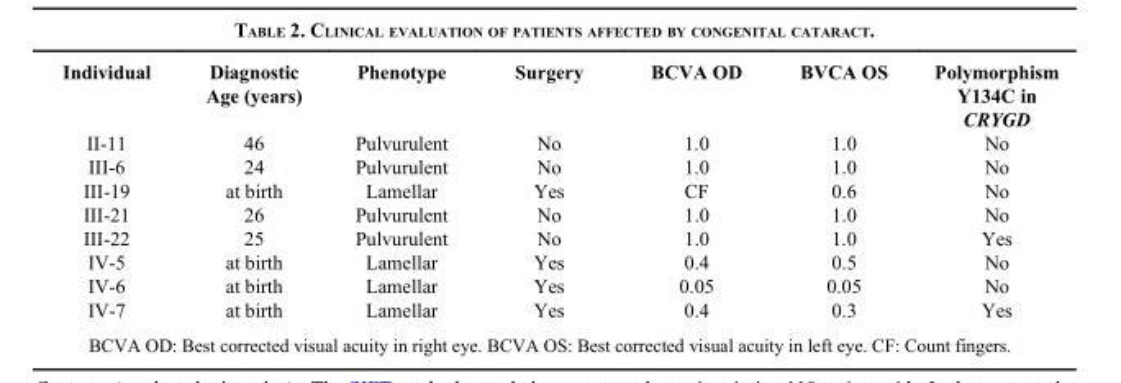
<table><thead><tr><td>Individual</td><td>Diagnostic Age (years)</td><td>Phenotype</td><td>Surgery</td><td>BCVA OD</td><td>BVCA OS</td><td>Polymorphism Y134C in CRYGD</td></tr></thead><tbody><tr><td>II-11</td><td>46</td><td>Pulvurulent</td><td>No</td><td>1.0</td><td>1.0</td><td>No</td></tr><tr><td>III-6</td><td>24</td><td>Pulvurulent</td><td>No</td><td>1.0</td><td>1.0</td><td>No</td></tr><tr><td>III-19</td><td>at birth</td><td>Lamellar</td><td>Yes</td><td>CF</td><td>0.6</td><td>No</td></tr><tr><td>III-21</td><td>26</td><td>Pulvurulent</td><td>No</td><td>1.0</td><td>1.0</td><td>No</td></tr><tr><td>III-22</td><td>25</td><td>Pulvurulent</td><td>No</td><td>1.0</td><td>1.0</td><td>Yes</td></tr><tr><td>IV-5</td><td>at birth</td><td>Lamellar</td><td>Yes</td><td>0.4</td><td>0.5</td><td>No</td></tr><tr><td>IV-6</td><td>at birth</td><td>Lamellar</td><td>Yes</td><td>0.05</td><td>0.05</td><td>No</td></tr><tr><td>IV-7</td><td>at birth</td><td>Lamellar</td><td>Yes</td><td>0.4</td><td>0.3</td><td>Yes</td></tr></tbody></table>